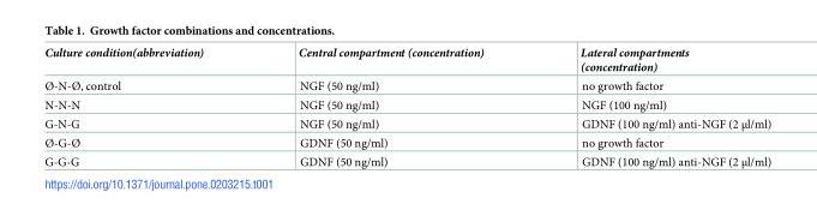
<table><thead><tr><td>Culture condition(abbreviation)</td><td>Central compartment (concentration)</td><td>Lateral compartments (concentration)</td></tr></thead><tbody><tr><td>Ø-N-Ø, control</td><td>NGF (50 ng/ml)</td><td>no growth factor</td></tr><tr><td>N-N-N</td><td>NGF (50 ng/ml)</td><td>NGF (100 ng/ml)</td></tr><tr><td>G-N-G</td><td>NGF (50 ng/ml)</td><td>GDNF (100 ng/ml) anti-NGF (2 μl/ml)</td></tr><tr><td>Ø-G-Ø</td><td>GDNF (50 ng/ml)</td><td>no growth factor</td></tr><tr><td>G-G-G</td><td>GDNF (50 ng/ml)</td><td>GDNF (100 ng/ml) anti-NGF (2 μl/ml)</td></tr></tbody></table>